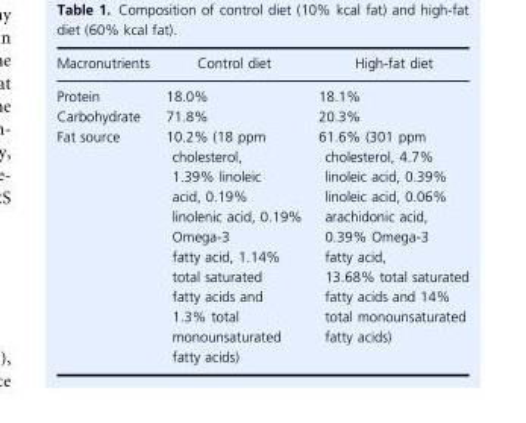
<table><thead><tr><td>Macronutrients</td><td>Control diet</td><td>High-fat diet</td></tr></thead><tbody><tr><td>Protein</td><td>18.0%</td><td>18.1%</td></tr><tr><td>Carbohydrate</td><td>71.8%</td><td>20.3%</td></tr><tr><td>Fat source</td><td>10.2% (18 ppm cholesterol, 1.39% linoleic acid, 0.19% linolenic acid, 0.19% Omega-3 fatty acid, 1.14% total saturated fatty acids and 1.3% total monounsaturated fatty acids)</td><td>61.6% (301 ppm cholesterol, 4.7% linoleic acid, 0.39% linoleic acid, 0.06% arachidonic acid, 0.39% Omega-3 fatty acid, 13.68% total saturated fatty acids and 14% total monounsaturated fatty acids)</td></tr></tbody></table>